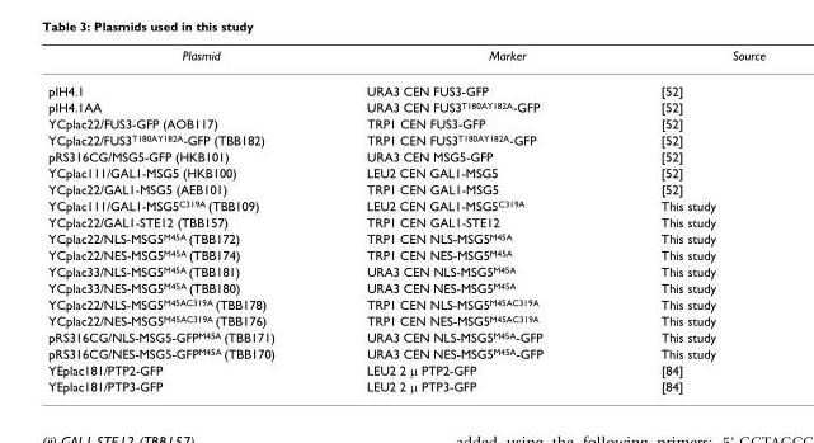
<table><thead><tr><td>Plasmid</td><td>Marker</td><td>Source</td></tr></thead><tbody><tr><td>pIH4.1</td><td>URA3 CEN FUS3-GFP</td><td>[52]</td></tr><tr><td>pIH4.1AA</td><td>URA3 CEN FUS3<sup>T180AY182A</sup>-GFP</td><td>[52]</td></tr><tr><td>YCplac22/FUS3-GFP (AOB117)</td><td>TRP1 CEN FUS3-GFP</td><td>[52]</td></tr><tr><td>YCplac22/FUS3<sup>T180AY182A</sup>-GFP (TBB182)</td><td>TRP1 CEN FUS3<sup>T180AY182A</sup>-GFP</td><td>[52]</td></tr><tr><td>pRS316CG/MSG5-GFP (HKB101)</td><td>URA3 CEN MSG5-GFP</td><td>[52]</td></tr><tr><td>YCplac111/GAL1-MSG5 (HKB100)</td><td>LEU2 CEN GAL1-MSG5</td><td>[52]</td></tr><tr><td>YCplac22/GAL1-MSG5 (AEB101)</td><td>TRP1 CEN GAL1-MSG5</td><td>[52]</td></tr><tr><td>YCplac111/GAL1-MSG5<sup>C319A</sup> (TBB109)</td><td>LEU2 CEN GAL1-MSG5<sup>C319A</sup></td><td>This study</td></tr><tr><td>YCplac22/GAL1-STE12 (TBB157)</td><td>TRP1 CEN GAL1-STE12</td><td>This study</td></tr><tr><td>YCplac22/NLS-MSG5<sup>M45A</sup> (TBB172)</td><td>TRP1 CEN NLS-MSG5<sup>M45A</sup></td><td>This study</td></tr><tr><td>YCplac22/NES-MSG5<sup>M45A</sup> (TBB174)</td><td>TRP1 CEN NES-MSG5<sup>M45A</sup></td><td>This study</td></tr><tr><td>YCplac33/NLS-MSG5<sup>M45A</sup> (TBB181)</td><td>URA3 CEN NLS-MSG5<sup>M45A</sup></td><td>This study</td></tr><tr><td>YCplac33/NES-MSG5<sup>M45A</sup> (TBB180)</td><td>URA3 CEN NES-MSG5<sup>M45A</sup></td><td>This study</td></tr><tr><td>YCplac22/NLS-MSG5<sup>M45AC319A</sup> (TBB178)</td><td>TRP1 CEN NLS-MSG5<sup>M45AC319A</sup></td><td>This study</td></tr><tr><td>YCplac22/NES-MSG5<sup>M45AC319A</sup> (TBB176)</td><td>TRP1 CEN NES-MSG5<sup>M45AC319A</sup></td><td>This study</td></tr><tr><td>pRS316CG/NLS-MSG5-GFP<sup>M45A</sup> (TBB171)</td><td>URA3 CEN NLS-MSG5<sup>M45A</sup>-GFP</td><td>This study</td></tr><tr><td>pRS316CG/NES-MSG5-GFP<sup>M45A</sup> (TBB170)</td><td>URA3 CEN NES-MSG5<sup>M45A</sup>-GFP</td><td>This study</td></tr><tr><td>YEplac181/PTP2-GFP</td><td>LEU2 2 μ PTP2-GFP</td><td>[84]</td></tr><tr><td>YEplac181/PTP3-GFP</td><td>LEU2 2 μ PTP3-GFP</td><td>[84]</td></tr></tbody></table>